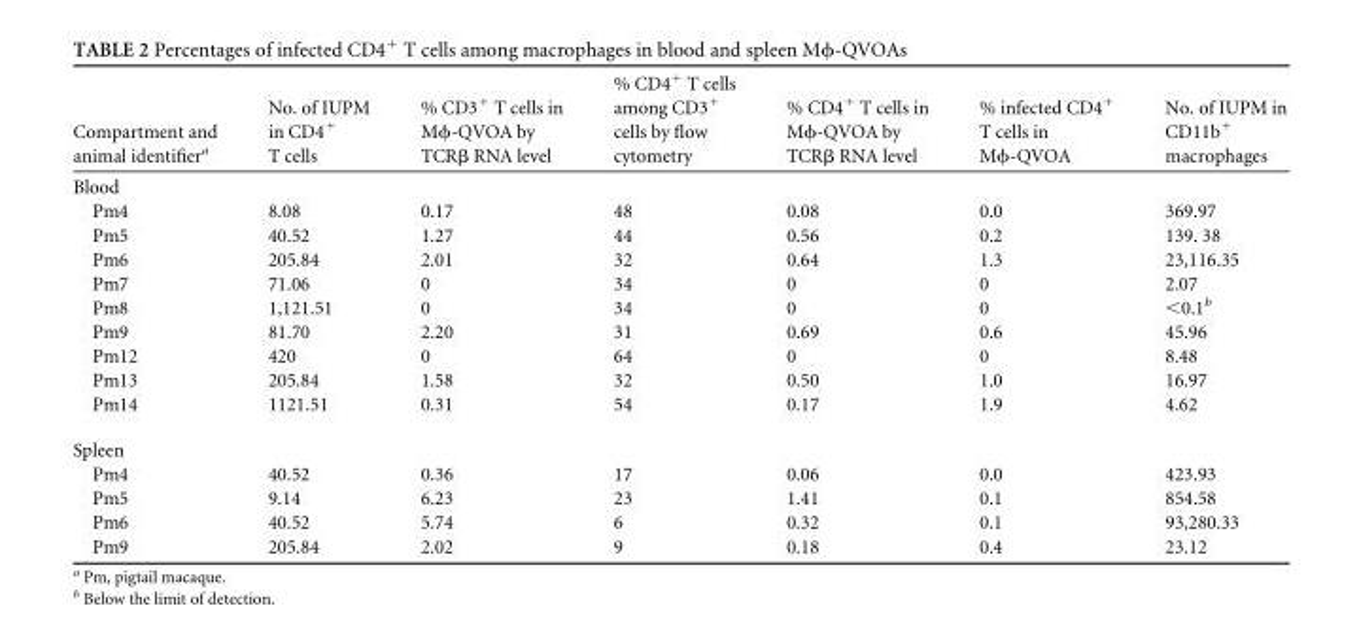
<table><thead><tr><td>Compartment and animal identifier<sup>a</sup></td><td>No. of IUPM in CD4<sup>+</sup> T cells</td><td>% CD3<sup>+</sup> T cells in Mϕ-QVOA by TCRβ RNA level</td><td>% CD4<sup>+</sup> T cells among CD3<sup>+</sup> cells by flow cytometry</td><td>% CD4<sup>+</sup> T cells in Mϕ-QVOA by TCRβ RNA level</td><td>% infected CD4<sup>+</sup> T cells in Mϕ-QVOA</td><td>No. of IUPM in CD11b<sup>+</sup> macrophages</td></tr></thead><tbody><tr><td colspan="7">Blood</td></tr><tr><td>Pm4</td><td>8.08</td><td>0.17</td><td>48</td><td>0.08</td><td>0.0</td><td>369.97</td></tr><tr><td>Pm5</td><td>40.52</td><td>1.27</td><td>44</td><td>0.56</td><td>0.2</td><td>139. 38</td></tr><tr><td>Pm6</td><td>205.84</td><td>2.01</td><td>32</td><td>0.64</td><td>1.3</td><td>23,116.35</td></tr><tr><td>Pm7</td><td>71.06</td><td>0</td><td>34</td><td>0</td><td>0</td><td>2.07</td></tr><tr><td>Pm8</td><td>1,121.51</td><td>0</td><td>34</td><td>0</td><td>0</td><td>&lt;0.1<sup>b</sup></td></tr><tr><td>Pm9</td><td>81.70</td><td>2.20</td><td>31</td><td>0.69</td><td>0.6</td><td>45.96</td></tr><tr><td>Pm12</td><td>420</td><td>0</td><td>64</td><td>0</td><td>0</td><td>8.48</td></tr><tr><td>Pm13</td><td>205.84</td><td>1.58</td><td>32</td><td>0.50</td><td>1.0</td><td>16.97</td></tr><tr><td>Pm14</td><td>1121.51</td><td>0.31</td><td>54</td><td>0.17</td><td>1.9</td><td>4.62</td></tr><tr><td colspan="7">Spleen</td></tr><tr><td>Pm4</td><td>40.52</td><td>0.36</td><td>17</td><td>0.06</td><td>0.0</td><td>423.93</td></tr><tr><td>Pm5</td><td>9.14</td><td>6.23</td><td>23</td><td>1.41</td><td>0.1</td><td>854.58</td></tr><tr><td>Pm6</td><td>40.52</td><td>5.74</td><td>6</td><td>0.32</td><td>0.1</td><td>93,280.33</td></tr><tr><td>Pm9</td><td>205.84</td><td>2.02</td><td>9</td><td>0.18</td><td>0.4</td><td>23.12</td></tr></tbody></table>